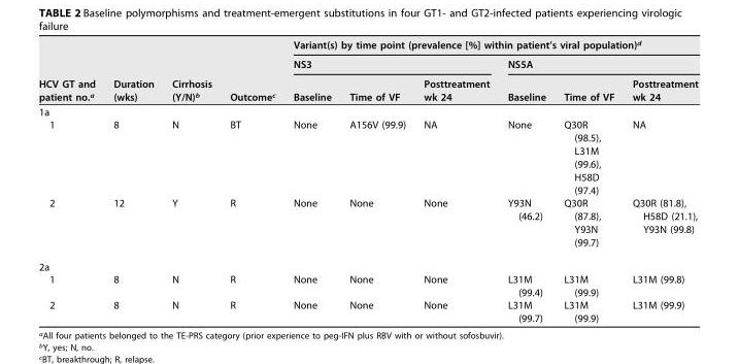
<table><thead><tr><td rowspan="3">HCV GT and patient no.<sup>a</sup></td><td rowspan="3">Duration (wks)</td><td rowspan="3">Cirrhosis (Y/N)<sup>b</sup></td><td rowspan="3">Outcome<sup>c</sup></td><td colspan="6">Variant(s) by time point (prevalence [%] within patient’s viral population)<sup>d</sup></td></tr><tr><td colspan="3">NS3</td><td colspan="3">NS5A</td></tr><tr><td>Baseline</td><td>Time of VF</td><td>Posttreatment wk 24</td><td>Baseline</td><td>Time of VF</td><td>Posttreatment wk 24</td></tr></thead><tbody><tr><td colspan="10">1a</td></tr><tr><td>1</td><td>8</td><td>N</td><td>BT</td><td>None</td><td>A156V (99.9)</td><td>NA</td><td>None</td><td>Q30R (98.5), L31M (99.6), H58D (97.4)</td><td>NA</td></tr><tr><td>2</td><td>12</td><td>Y</td><td>R</td><td>None</td><td>None</td><td>None</td><td>Y93N (46.2)</td><td>Q30R (87.8), Y93N (99.7)</td><td>Q30R (81.8), H58D (21.1), Y93N (99.8)</td></tr><tr><td colspan="10">2a</td></tr><tr><td>1</td><td>8</td><td>N</td><td>R</td><td>None</td><td>None</td><td>None</td><td>L31M (99.4)</td><td>L31M (99.9)</td><td>L31M (99.8)</td></tr><tr><td>2</td><td>8</td><td>N</td><td>R</td><td>None</td><td>None</td><td>None</td><td>L31M (99.7)</td><td>L31M (99.9)</td><td>L31M (99.9)</td></tr></tbody></table>